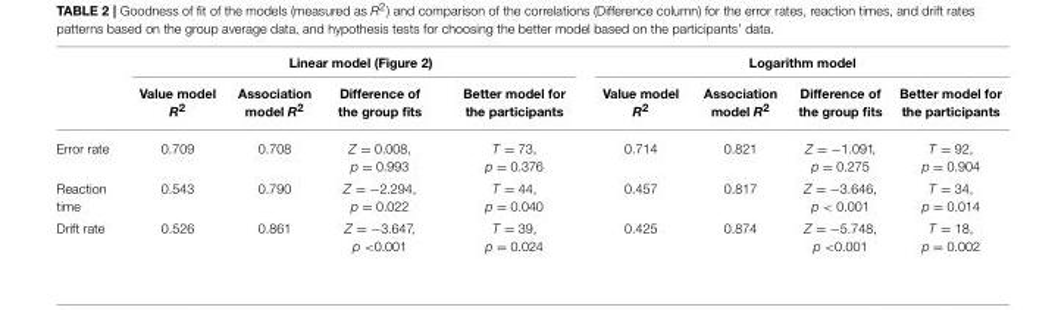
<table><thead><tr><td rowspan="2"></td><td colspan="4">Linear model (Figure 2)</td><td colspan="4">Logarithm model</td></tr><tr><td>Value model R<sup>2</sup></td><td>Association model R<sup>2</sup></td><td>Difference of the group fits</td><td>Better model for the participants</td><td>Value model R<sup>2</sup></td><td>Association model R<sup>2</sup></td><td>Difference of the group fits</td><td>Better model for the participants</td></tr></thead><tbody><tr><td>Error rate</td><td>0.709</td><td>0.708</td><td>Z = 0.008, p = 0.993</td><td>T = 73, p = 0.376</td><td>0.714</td><td>0.821</td><td>Z = −1.091, p = 0.275</td><td>T = 92, p = 0.904</td></tr><tr><td>Reaction time</td><td>0.543</td><td>0.790</td><td>Z = −2.294, p = 0.022</td><td>T = 44, p = 0.040</td><td>0.457</td><td>0.817</td><td>Z = −3.646, p &lt; 0.001</td><td>T = 34, p = 0.014</td></tr><tr><td>Drift rate</td><td>0.526</td><td>0.861</td><td>Z = −3.647, p &lt;0.001</td><td>T = 39, p = 0.024</td><td>0.425</td><td>0.874</td><td>Z = −5.748, p &lt;0.001</td><td>T = 18, p = 0.002</td></tr></tbody></table>